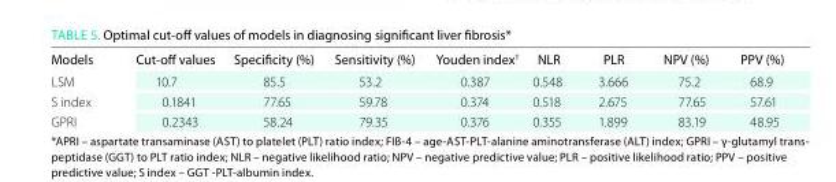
<table><thead><tr><td>Models</td><td>Cut-off values</td><td>specificity (%)</td><td>sensitivity (%)</td><td>Youden index<sup>†</sup></td><td>NLR</td><td>PLR</td><td>NPV (%)</td><td>PPV (%)</td></tr></thead><tbody><tr><td>LSM</td><td>10.7</td><td>85.5</td><td>53.2</td><td>0.387</td><td>0.548</td><td>3.666</td><td>75.2</td><td>68.9</td></tr><tr><td>S index</td><td>0.1841</td><td>77.65</td><td>59.78</td><td>0.374</td><td>0.518</td><td>2.675</td><td>77.65</td><td>57.61</td></tr><tr><td>GPRI</td><td>0.2343</td><td>58.24</td><td>79.35</td><td>0.376</td><td>0.355</td><td>1.899</td><td>83.19</td><td>48.95</td></tr></tbody></table>